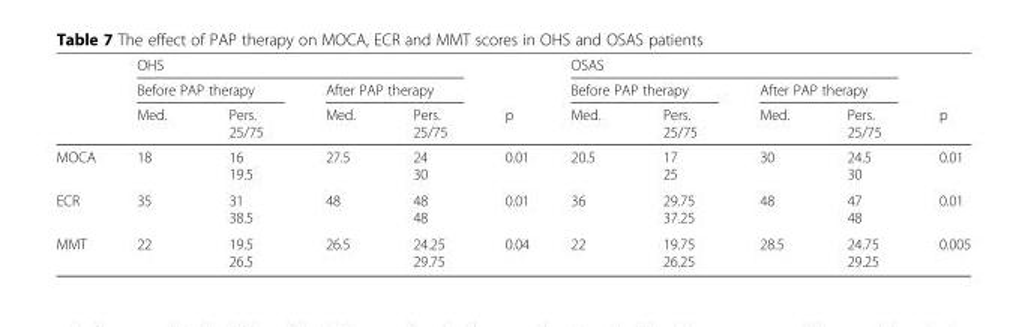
<table><thead><tr><td rowspan="3"></td><td colspan="4">OHS</td><td rowspan="3">p</td><td colspan="4">OSAS</td><td rowspan="3">p</td></tr><tr><td colspan="2">Before PAP therapy</td><td colspan="2">After PAP therapy</td><td colspan="2">Before PAP therapy</td><td colspan="2">After PAP therapy</td></tr><tr><td>Med.</td><td>Pers. 25/75</td><td>Med.</td><td>Pers. 25/75</td><td>Med.</td><td>Pers. 25/75</td><td>Med.</td><td>Pers. 25/75</td></tr></thead><tbody><tr><td>MOCA</td><td>18</td><td>16 19.5</td><td>27.5</td><td>24 30</td><td>0.01</td><td>20.5</td><td>17 25</td><td>30</td><td>24.5 30</td><td>0.01</td></tr><tr><td>ECR</td><td>35</td><td>31 38.5</td><td>48</td><td>48 48</td><td>0.01</td><td>36</td><td>29.75 37.25</td><td>48</td><td>47 48</td><td>0.01</td></tr><tr><td>MMT</td><td>22</td><td>19.5 26.5</td><td>26.5</td><td>24.25 29.75</td><td>0.04</td><td>22</td><td>19.75 26.25</td><td>28.5</td><td>24.75 29.25</td><td>0.005</td></tr></tbody></table>